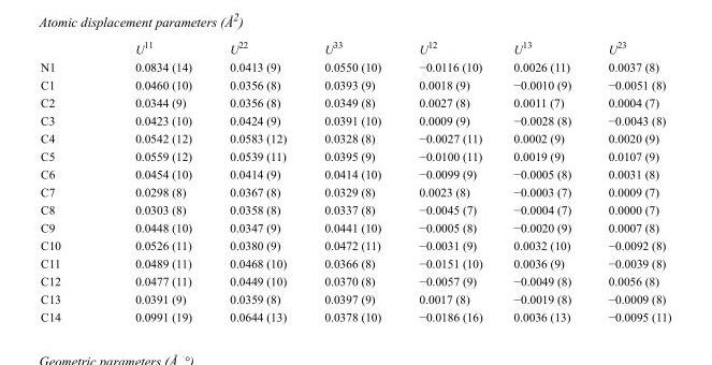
<table><thead><tr><td></td><td>U<sup>11</sup></td><td>U<sup>22</sup></td><td>U<sup>33</sup></td><td>U<sup>12</sup></td><td>U<sup>13</sup></td><td>U<sup>23</sup></td></tr></thead><tbody><tr><td>N1</td><td>0.0834 (14)</td><td>0.0413 (9)</td><td>0.0550 (10)</td><td>−0.0116 (10)</td><td>0.0026 (11)</td><td>0.0037 (8)</td></tr><tr><td>C1</td><td>0.0460 (10)</td><td>0.0356 (8)</td><td>0.0393 (9)</td><td>0.0018 (9)</td><td>−0.0010 (9)</td><td>−0.0051 (8)</td></tr><tr><td>C2</td><td>0.0344 (9)</td><td>0.0356 (8)</td><td>0.0349 (8)</td><td>0.0027 (8)</td><td>0.0011 (7)</td><td>0.0004 (7)</td></tr><tr><td>C3</td><td>0.0423 (10)</td><td>0.0424 (9)</td><td>0.0391 (10)</td><td>0.0009 (9)</td><td>−0.0028 (8)</td><td>−0.0043 (8)</td></tr><tr><td>C4</td><td>0.0542 (12)</td><td>0.0583 (12)</td><td>0.0328 (8)</td><td>−0.0027 (11)</td><td>0.0002 (9)</td><td>0.0020 (9)</td></tr><tr><td>C5</td><td>0.0559 (12)</td><td>0.0539 (11)</td><td>0.0395 (9)</td><td>−0.0100 (11)</td><td>0.0019 (9)</td><td>0.0107 (9)</td></tr><tr><td>C6</td><td>0.0454 (10)</td><td>0.0414 (9)</td><td>0.0414 (10)</td><td>−0.0099 (9)</td><td>−0.0005 (8)</td><td>0.0031 (8)</td></tr><tr><td>C7</td><td>0.0298 (8)</td><td>0.0367 (8)</td><td>0.0329 (8)</td><td>0.0023 (8)</td><td>−0.0003 (7)</td><td>0.0009 (7)</td></tr><tr><td>C8</td><td>0.0303 (8)</td><td>0.0358 (8)</td><td>0.0337 (8)</td><td>−0.0045 (7)</td><td>−0.0004 (7)</td><td>0.0000 (7)</td></tr><tr><td>C9</td><td>0.0448 (10)</td><td>0.0347 (9)</td><td>0.0441 (10)</td><td>−0.0005 (8)</td><td>−0.0020 (9)</td><td>0.0007 (8)</td></tr><tr><td>C10</td><td>0.0526 (11)</td><td>0.0380 (9)</td><td>0.0472 (11)</td><td>−0.0031 (9)</td><td>0.0032 (10)</td><td>−0.0092 (8)</td></tr><tr><td>C11</td><td>0.0489 (11)</td><td>0.0468 (10)</td><td>0.0366 (8)</td><td>−0.0151 (10)</td><td>0.0036 (9)</td><td>−0.0039 (8)</td></tr><tr><td>C12</td><td>0.0477 (11)</td><td>0.0449 (10)</td><td>0.0370 (8)</td><td>−0.0057 (9)</td><td>−0.0049 (8)</td><td>0.0056 (8)</td></tr><tr><td>C13</td><td>0.0391 (9)</td><td>0.0359 (8)</td><td>0.0397 (9)</td><td>0.0017 (8)</td><td>−0.0019 (8)</td><td>−0.0009 (8)</td></tr><tr><td>C14</td><td>0.0991 (19)</td><td>0.0644 (13)</td><td>0.0378 (10)</td><td>−0.0186 (16)</td><td>0.0036 (13)</td><td>−0.0095 (11)</td></tr></tbody></table>